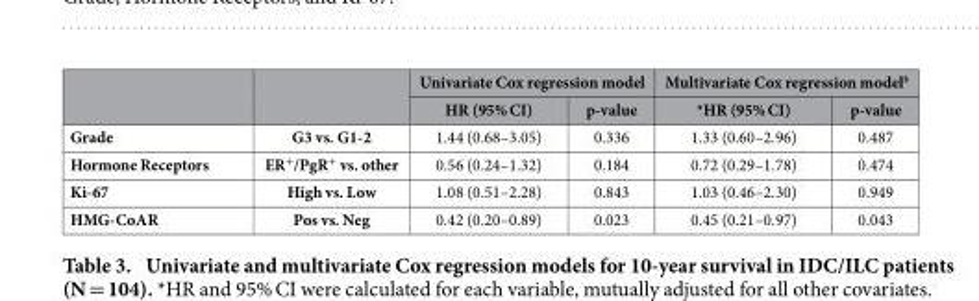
<table><thead><tr><td rowspan="2"></td><td rowspan="2"></td><td colspan="2">Univariate Cox regression model</td><td colspan="2">Multivariate Cox regression model§</td></tr><tr><td>HR (95% CI)</td><td>p-value</td><td>*HR (95% CI)</td><td>p-value</td></tr></thead><tbody><tr><td>Grade</td><td>G3 vs. G1-2</td><td>1.44 (0.68–3.05)</td><td>0.336</td><td>1.33 (0.60–2.96)</td><td>0.487</td></tr><tr><td>Hormone Receptors</td><td>ER<sup>+</sup>/PgR<sup>+</sup> vs. other</td><td>0.56 (0.24–1.32)</td><td>0.184</td><td>0.72 (0.29–1.78)</td><td>0.474</td></tr><tr><td>Ki-67</td><td>High vs. Low</td><td>1.08 (0.51–2.28)</td><td>0.843</td><td>1.03 (0.46–2.30)</td><td>0.949</td></tr><tr><td>HMG-CoAR</td><td>Pos vs. Neg</td><td>0.42 (0.20–0.89)</td><td>0.023</td><td>0.45 (0.21–0.97)</td><td>0.043</td></tr></tbody></table>